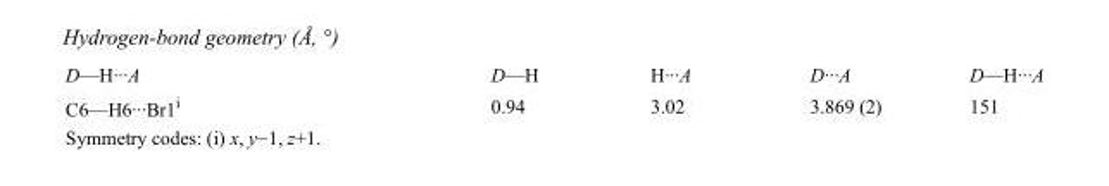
<table><tbody><tr><td>D—H···A</td><td>D—H</td><td>H···A</td><td>D···A</td><td>D—H···A</td></tr><tr><td>C6—H6···Br1<sup>i</sup></td><td>0.94</td><td>3.02</td><td>3.869 (2)</td><td>151</td></tr></tbody></table>